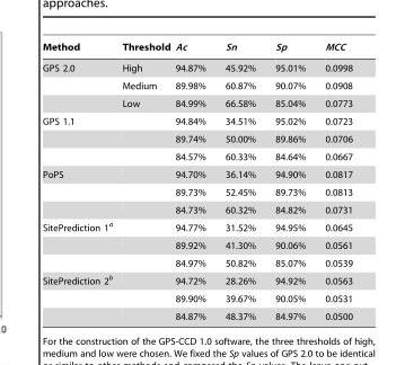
<table><thead><tr><td>Method</td><td>Threshold</td><td>Ac</td><td>Sn</td><td>Sp</td><td>MCC</td></tr></thead><tbody><tr><td rowspan="3">GPS 2.0</td><td>High</td><td>94.87%</td><td>45.92%</td><td>95.01%</td><td>0.0998</td></tr><tr><td>Medium</td><td>89.98%</td><td>60.87%</td><td>90.07%</td><td>0.0908</td></tr><tr><td>Low</td><td>84.99%</td><td>66.58%</td><td>85.04%</td><td>0.0773</td></tr><tr><td rowspan="3">GPS 1.1</td><td></td><td>94.84%</td><td>34.51%</td><td>95.02%</td><td>0.0723</td></tr><tr><td></td><td>89.74%</td><td>50.00%</td><td>89.86%</td><td>0.0706</td></tr><tr><td></td><td>84.57%</td><td>60.33%</td><td>84.64%</td><td>0.0667</td></tr><tr><td rowspan="3">PoPS</td><td></td><td>94.70%</td><td>36.14%</td><td>94.90%</td><td>0.0817</td></tr><tr><td></td><td>89.73%</td><td>52.45%</td><td>89.73%</td><td>0.0813</td></tr><tr><td></td><td>84.73%</td><td>60.32%</td><td>84.82%</td><td>0.0731</td></tr><tr><td rowspan="3">SitePrediction 1<sup>a</sup></td><td></td><td>94.77%</td><td>31.52%</td><td>94.95%</td><td>0.0645</td></tr><tr><td></td><td>89.92%</td><td>41.30%</td><td>90.06%</td><td>0.0561</td></tr><tr><td></td><td>84.97%</td><td>50.82%</td><td>85.07%</td><td>0.0539</td></tr><tr><td rowspan="3">SitePrediction 2<sup>b</sup></td><td></td><td>94.72%</td><td>28.26%</td><td>94.92%</td><td>0.0563</td></tr><tr><td></td><td>89.90%</td><td>39.67%</td><td>90.05%</td><td>0.0531</td></tr><tr><td></td><td>84.87%</td><td>48.37%</td><td>84.97%</td><td>0.0500</td></tr></tbody></table>